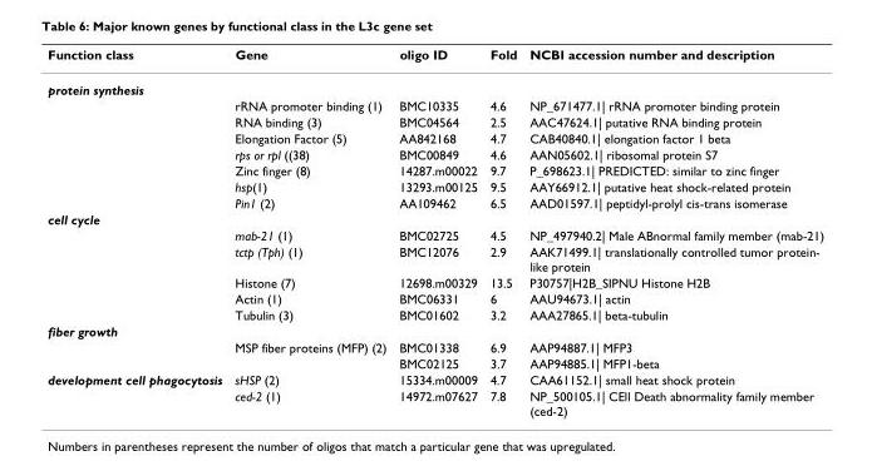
<table><thead><tr><td>Function class</td><td>Gene</td><td>oligo ID</td><td>Fold</td><td>NCBI accession number and description</td></tr></thead><tbody><tr><td colspan="5">protein synthesis</td></tr><tr><td></td><td>rRNA promoter binding (1)</td><td>BMC10335</td><td>4.6</td><td>NP_671477.1| rRNA promoter binding protein</td></tr><tr><td></td><td>RNA binding (3)</td><td>BMC04564</td><td>2.5</td><td>AAC47624.1| putative RNA binding protein</td></tr><tr><td></td><td>Elongation Factor (5)</td><td>AA842168</td><td>4.7</td><td>CAB40840.1| elongation factor 1 beta</td></tr><tr><td></td><td>rps or rpl ((38)</td><td>BMC00849</td><td>4.6</td><td>AAN05602.1| ribosomal protein S7</td></tr><tr><td></td><td>Zinc finger (8)</td><td>14287.m00022</td><td>9.7</td><td>P_698623.1| PREDICTED: similar to zinc finger</td></tr><tr><td></td><td>hsp(1)</td><td>13293.m00125</td><td>9.5</td><td>AAY66912.1| putative heat shock-related protein</td></tr><tr><td></td><td>Pin1 (2)</td><td>AA109462</td><td>6.5</td><td>AAD01597.1| peptidyl-prolyl cis-trans isomerase</td></tr><tr><td colspan="5">cell cycle</td></tr><tr><td></td><td>mab-21 (1)</td><td>BMC02725</td><td>4.5</td><td>NP_497940.2| Male ABnormal family member (mab-21)</td></tr><tr><td></td><td>tctp (Tph) (1)</td><td>BMC12076</td><td>2.9</td><td>AAK71499.1| translationally controlled tumor protein- like protein</td></tr><tr><td></td><td>Histone (7)</td><td>12698.m00329</td><td>13.5</td><td>P30757|H2B_SIPNU Histone H2B</td></tr><tr><td></td><td>Actin (1)</td><td>BMC06331</td><td>6</td><td>AAU94673.1| actin</td></tr><tr><td></td><td>Tubulin (3)</td><td>BMC01602</td><td>3.2</td><td>AAA27865.1| beta-tubulin</td></tr><tr><td colspan="5">fiber growth</td></tr><tr><td></td><td>MSP fiber proteins (MFP) (2)</td><td>BMC01338</td><td>6.9</td><td>AAP94887.1| MFP3</td></tr><tr><td></td><td></td><td>BMC02125</td><td>3.7</td><td>AAP94885.1| MFP1-beta</td></tr><tr><td rowspan="2">development cell phagocytosis</td><td>sHSP (2)</td><td>15334.m00009</td><td>4.7</td><td>CAA61152.1| small heat shock protein</td></tr><tr><td>ced-2 (1)</td><td>14972.m07627</td><td>7.8</td><td>NP_500105.1| CEll Death abnormality family member (ced-2)</td></tr></tbody></table>